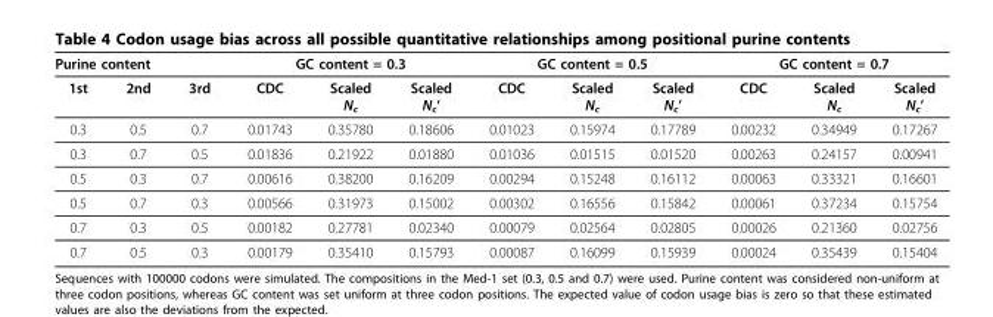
<table><thead><tr><td colspan="3">Purine content</td><td colspan="3">GC content = 0.3</td><td colspan="3">GC content = 0.5</td><td colspan="3">GC content = 0.7</td></tr><tr><td>1st</td><td>2nd</td><td>3rd</td><td>CDC</td><td>Scaled N<sub>c</sub></td><td>Scaled N<sub>c</sub>’</td><td>CDC</td><td>Scaled N<sub>c</sub></td><td>Scaled N<sub>c</sub>’</td><td>CDC</td><td>Scaled N<sub>c</sub></td><td>Scaled N<sub>c</sub>’</td></tr></thead><tbody><tr><td>0.3</td><td>0.5</td><td>0.7</td><td>0.01743</td><td>0.35780</td><td>0.18606</td><td>0.01023</td><td>0.15974</td><td>0.17789</td><td>0.00232</td><td>0.34949</td><td>0.17267</td></tr><tr><td>0.3</td><td>0.7</td><td>0.5</td><td>0.01836</td><td>0.21922</td><td>0.01880</td><td>0.01036</td><td>0.01515</td><td>0.01520</td><td>0.00263</td><td>0.24157</td><td>0.00941</td></tr><tr><td>0.5</td><td>0.3</td><td>0.7</td><td>0.00616</td><td>0.38200</td><td>0.16209</td><td>0.00294</td><td>0.15248</td><td>0.16112</td><td>0.00063</td><td>0.33321</td><td>0.16601</td></tr><tr><td>0.5</td><td>0.7</td><td>0.3</td><td>0.00566</td><td>0.31973</td><td>0.15002</td><td>0.00302</td><td>0.16556</td><td>0.15842</td><td>0.00061</td><td>0.37234</td><td>0.15754</td></tr><tr><td>0.7</td><td>0.3</td><td>0.5</td><td>0.00182</td><td>0.27781</td><td>0.02340</td><td>0.00079</td><td>0.02564</td><td>0.02805</td><td>0.00026</td><td>0.21360</td><td>0.02756</td></tr><tr><td>0.7</td><td>0.5</td><td>0.3</td><td>0.00179</td><td>0.35410</td><td>0.15793</td><td>0.00087</td><td>0.16099</td><td>0.15939</td><td>0.00024</td><td>0.35439</td><td>0.15404</td></tr></tbody></table>